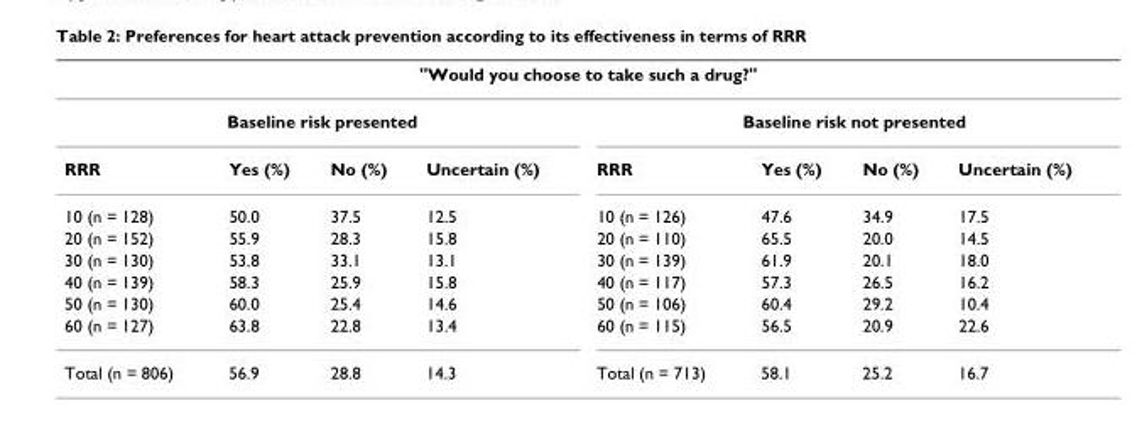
<table><thead><tr><td colspan="8">&quot;Would you choose to take such a drug?&quot;</td></tr><tr><td colspan="4">Baseline risk presented</td><td colspan="4">Baseline risk not presented</td></tr><tr><td>RRR</td><td>Yes (%)</td><td>No (%)</td><td>Uncertain (%)</td><td>RRR</td><td>Yes (%)</td><td>No (%)</td><td>Uncertain (%)</td></tr></thead><tbody><tr><td>10 (n = 128)</td><td>50.0</td><td>37.5</td><td>12.5</td><td>10 (n = 126)</td><td>47.6</td><td>34.9</td><td>17.5</td></tr><tr><td>20 (n = 152)</td><td>55.9</td><td>28.3</td><td>15.8</td><td>20 (n = 110)</td><td>65.5</td><td>20.0</td><td>14.5</td></tr><tr><td>30 (n = 130)</td><td>53.8</td><td>33.1</td><td>13.1</td><td>30 (n = 139)</td><td>61.9</td><td>20.1</td><td>18.0</td></tr><tr><td>40 (n = 139)</td><td>58.3</td><td>25.9</td><td>15.8</td><td>40 (n = 117)</td><td>57.3</td><td>26.5</td><td>16.2</td></tr><tr><td>50 (n = 130)</td><td>60.0</td><td>25.4</td><td>14.6</td><td>50 (n = 106)</td><td>60.4</td><td>29.2</td><td>10.4</td></tr><tr><td>60 (n = 127)</td><td>63.8</td><td>22.8</td><td>13.4</td><td>60 (n = 115)</td><td>56.5</td><td>20.9</td><td>22.6</td></tr><tr><td>Total (n = 806)</td><td>56.9</td><td>28.8</td><td>14.3</td><td>Total (n = 713)</td><td>58.1</td><td>25.2</td><td>16.7</td></tr></tbody></table>